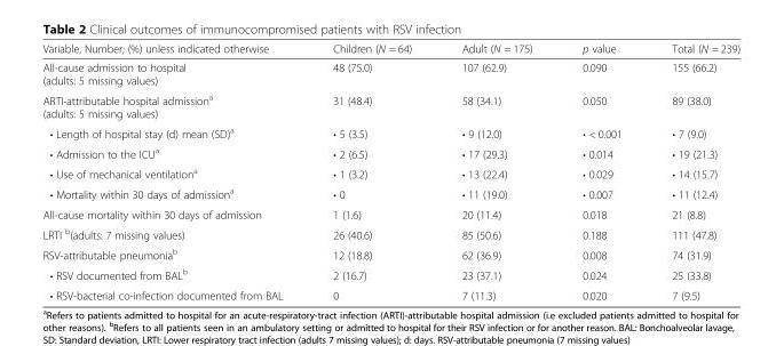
<table><thead><tr><td>Variable, Number; (%) unless indicated otherwise</td><td>Children (N = 64)</td><td>Adult (N = 175)</td><td>p value</td><td>Total (N = 239)</td></tr></thead><tbody><tr><td>All-cause admission to hospital (adults: 5 missing values)</td><td>48 (75.0)</td><td>107 (62.9)</td><td>0.090</td><td>155 (66.2)</td></tr><tr><td>ARTI-attributable hospital admission<sup>a</sup> (adults: 5 missing values)</td><td>31 (48.4)</td><td>58 (34.1)</td><td>0.050</td><td>89 (38.0)</td></tr><tr><td>• Length of hospital stay (d) mean (SD)<sup>a</sup></td><td>• 5 (3.5)</td><td>• 9 (12.0)</td><td>• &lt; 0.001</td><td>• 7 (9.0)</td></tr><tr><td>• Admission to the ICU<sup>a</sup></td><td>• 2 (6.5)</td><td>• 17 (29.3)</td><td>• 0.014</td><td>• 19 (21.3)</td></tr><tr><td>• Use of mechanical ventilation<sup>a</sup></td><td>• 1 (3.2)</td><td>• 13 (22.4)</td><td>• 0.029</td><td>• 14 (15.7)</td></tr><tr><td>• Mortality within 30 days of admission<sup>a</sup></td><td>• 0</td><td>• 11 (19.0)</td><td>• 0.007</td><td>• 11 (12.4)</td></tr><tr><td>All-cause mortality within 30 days of admission</td><td>1 (1.6)</td><td>20 (11.4)</td><td>0.018</td><td>21 (8.8)</td></tr><tr><td>LRTI <sup>b</sup>(adults: 7 missing values)</td><td>26 (40.6)</td><td>85 (50.6)</td><td>0.188</td><td>111 (47.8)</td></tr><tr><td>RSV-attributable pneumonia<sup>b</sup></td><td>12 (18.8)</td><td>62 (36.9)</td><td>0.008</td><td>74 (31.9)</td></tr><tr><td>• RSV documented from BAL<sup>b</sup></td><td>2 (16.7)</td><td>23 (37.1)</td><td>0.024</td><td>25 (33.8)</td></tr><tr><td>• RSV-bacterial co-infection documented from BAL</td><td>0</td><td>7 (11.3)</td><td>0.020</td><td>7 (9.5)</td></tr></tbody></table>